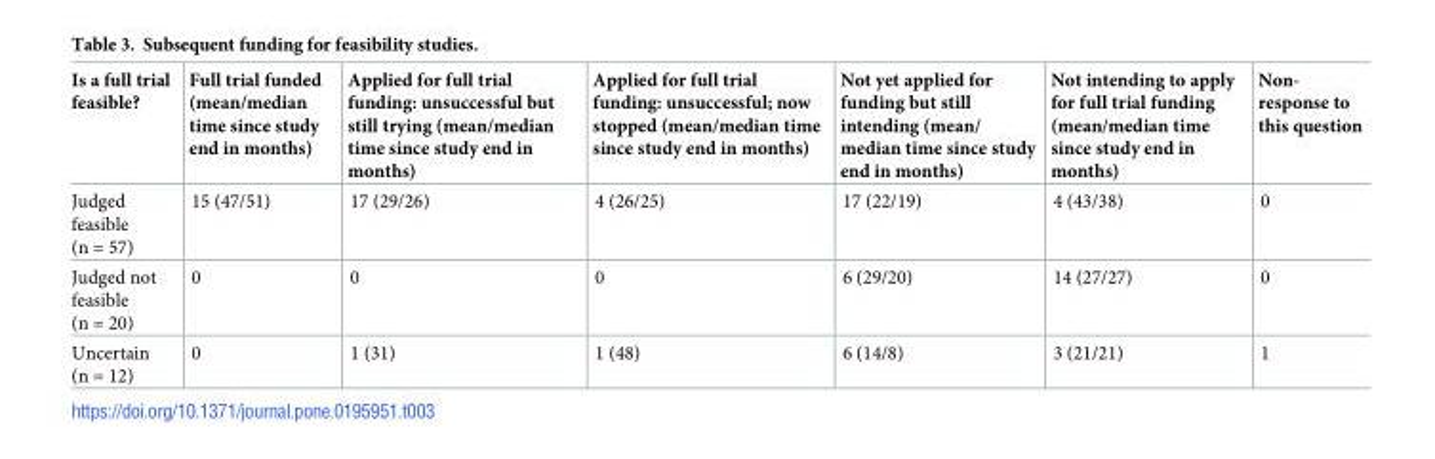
<table><thead><tr><td>Is a full trial feasible?</td><td>Full trial funded (mean/median time since study end in months)</td><td>Applied for full trial funding: unsuccessful but still trying (mean/median time since study end in months)</td><td>Applied for full trial funding: unsuccessful; now stopped (mean/median time since study end in months)</td><td>Not yet applied for funding but still intending (mean/ median time since study end in months)</td><td>Not intending to apply for full trial funding (mean/median time since study end in months)</td><td>Non- response to this question</td></tr></thead><tbody><tr><td>Judged feasible (n = 57)</td><td>15 (47/51)</td><td>17 (29/26)</td><td>4 (26/25)</td><td>17 (22/19)</td><td>4 (43/38)</td><td>0</td></tr><tr><td>Judged not feasible (n = 20)</td><td>0</td><td>0</td><td>0</td><td>6 (29/20)</td><td>14 (27/27)</td><td>0</td></tr><tr><td>Uncertain (n = 12)</td><td>0</td><td>1 (31)</td><td>1 (48)</td><td>6 (14/8)</td><td>3 (21/21)</td><td>1</td></tr></tbody></table>